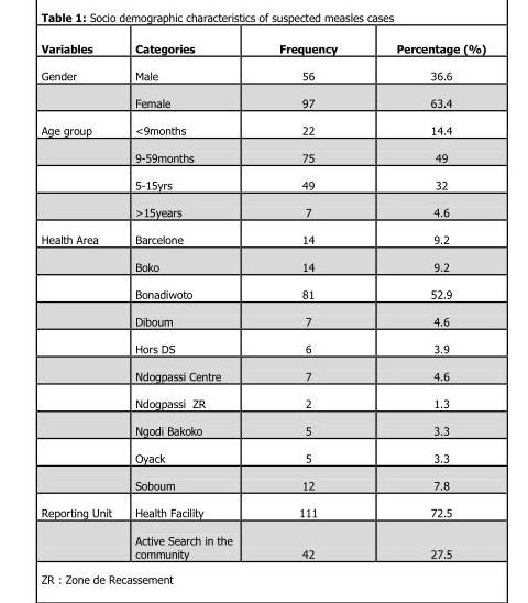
<table><thead><tr><td>Variables</td><td>Categories</td><td>Frequency</td><td>Percentage (%)</td></tr></thead><tbody><tr><td rowspan="2">Gender</td><td>Male</td><td>56</td><td>36.6</td></tr><tr><td>Female</td><td>97</td><td>63.4</td></tr><tr><td rowspan="4">Age group</td><td>&lt;9months</td><td>22</td><td>14.4</td></tr><tr><td>9-59months</td><td>75</td><td>49</td></tr><tr><td>5-15yrs</td><td>49</td><td>32</td></tr><tr><td>&gt;15years</td><td>7</td><td>4.6</td></tr><tr><td rowspan="10">Health Area</td><td>Barcelone</td><td>14</td><td>9.2</td></tr><tr><td>Boko</td><td>14</td><td>9.2</td></tr><tr><td>Bonadiwoto</td><td>81</td><td>52.9</td></tr><tr><td>Diboum</td><td>7</td><td>4.6</td></tr><tr><td>Hors DS</td><td>6</td><td>3.9</td></tr><tr><td>Ndogpassi Centre</td><td>7</td><td>4.6</td></tr><tr><td>Ndogpassi ZR</td><td>2</td><td>1.3</td></tr><tr><td>Ngodi Bakoko</td><td>5</td><td>3.3</td></tr><tr><td>Oyack</td><td>5</td><td>3.3</td></tr><tr><td>Soboum</td><td>12</td><td>7.8</td></tr><tr><td rowspan="2">Reporting Unit</td><td>Health Facility</td><td>111</td><td>72.5</td></tr><tr><td>Active Search in the community</td><td>42</td><td>27.5</td></tr></tbody></table>